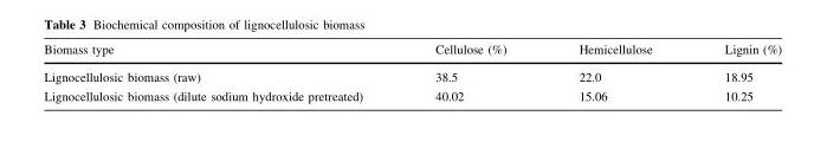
<table><thead><tr><td>Biomass type</td><td>Cellulose (%)</td><td>Hemicellulose</td><td>Lignin (%)</td></tr></thead><tbody><tr><td>Lignocellulosic biomass (raw)</td><td>38.5</td><td>22.0</td><td>18.95</td></tr><tr><td>Lignocellulosic biomass (dilute sodium hydroxide pretreated)</td><td>40.02</td><td>15.06</td><td>10.25</td></tr></tbody></table>